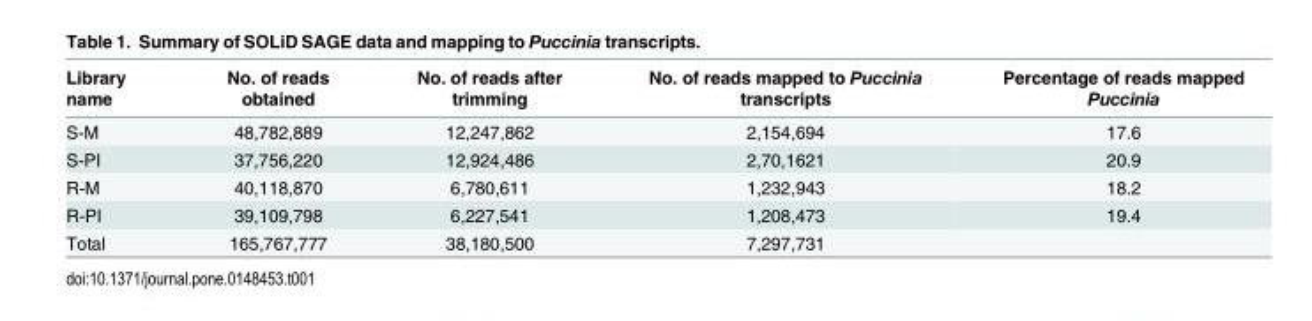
<table><thead><tr><td>Library name</td><td>No. of reads obtained</td><td>No. of reads after trimming</td><td>No. of reads mapped to Puccinia transcripts</td><td>Percentage of reads mapped Puccinia</td></tr></thead><tbody><tr><td>S-M</td><td>48,782,889</td><td>12,247,862</td><td>2,154,694</td><td>17.6</td></tr><tr><td>S-PI</td><td>37,756,220</td><td>12,924,486</td><td>2,70,1621</td><td>20.9</td></tr><tr><td>R-M</td><td>40,118,870</td><td>6,780,611</td><td>1,232,943</td><td>18.2</td></tr><tr><td>R-PI</td><td>39,109,798</td><td>6,227,541</td><td>1,208,473</td><td>19.4</td></tr><tr><td>Total</td><td>165,767,777</td><td>38,180,500</td><td>7,297,731</td><td></td></tr></tbody></table>